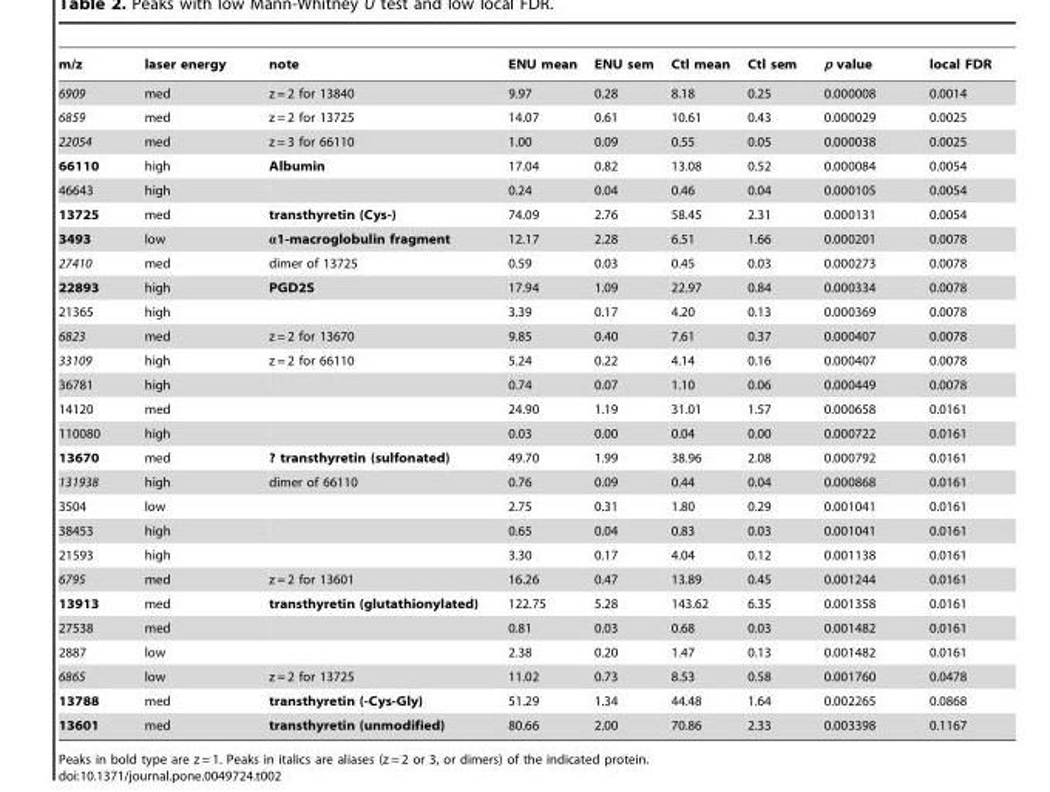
<table><thead><tr><td>m/z</td><td>laser energy</td><td>note</td><td>ENU mean</td><td>ENU sem</td><td>Ctl mean</td><td>Ctl sem</td><td>p value</td><td>local FDR</td></tr></thead><tbody><tr><td>6909</td><td>med</td><td>z = 2 for 13840</td><td>9.97</td><td>0.28</td><td>8.18</td><td>0.25</td><td>0.000008</td><td>0.0014</td></tr><tr><td>6859</td><td>med</td><td>z = 2 for 13725</td><td>14.07</td><td>0.61</td><td>10.61</td><td>0.43</td><td>0.000029</td><td>0.0025</td></tr><tr><td>22054</td><td>med</td><td>z = 3 for 66110</td><td>1.00</td><td>0.09</td><td>0.55</td><td>0.05</td><td>0.000038</td><td>0.0025</td></tr><tr><td>66110</td><td>high</td><td>Albumin</td><td>17.04</td><td>0.82</td><td>13.08</td><td>0.52</td><td>0.000084</td><td>0.0054</td></tr><tr><td>46643</td><td>high</td><td></td><td>0.24</td><td>0.04</td><td>0.46</td><td>0.04</td><td>0.000105</td><td>0.0054</td></tr><tr><td>13725</td><td>med</td><td>transthyretin (Cys-)</td><td>74.09</td><td>2.76</td><td>58.45</td><td>2.31</td><td>0.000131</td><td>0.0054</td></tr><tr><td>3493</td><td>low</td><td>α1-macroglobulin fragment</td><td>12.17</td><td>2.28</td><td>6.51</td><td>1.66</td><td>0.000201</td><td>0.0078</td></tr><tr><td>27410</td><td>med</td><td>dimer of 13725</td><td>0.59</td><td>0.03</td><td>0.45</td><td>0.03</td><td>0.000273</td><td>0.0078</td></tr><tr><td>22893</td><td>high</td><td>PGD2S</td><td>17.94</td><td>1.09</td><td>22.97</td><td>0.84</td><td>0.000334</td><td>0.0078</td></tr><tr><td>21365</td><td>high</td><td></td><td>3.39</td><td>0.17</td><td>4.20</td><td>0.13</td><td>0.000369</td><td>0.0078</td></tr><tr><td>6823</td><td>med</td><td>z = 2 for 13670</td><td>9.85</td><td>0.40</td><td>7.61</td><td>0.37</td><td>0.000407</td><td>0.0078</td></tr><tr><td>33109</td><td>high</td><td>z = 2 for 66110</td><td>5.24</td><td>0.22</td><td>4.14</td><td>0.16</td><td>0.000407</td><td>0.0078</td></tr><tr><td>36781</td><td>high</td><td></td><td>0.74</td><td>0.07</td><td>1.10</td><td>0.06</td><td>0.000449</td><td>0.0078</td></tr><tr><td>14120</td><td>med</td><td></td><td>24.90</td><td>1.19</td><td>31.01</td><td>1.57</td><td>0.000658</td><td>0.0161</td></tr><tr><td>110080</td><td>high</td><td></td><td>0.03</td><td>0.00</td><td>0.04</td><td>0.00</td><td>0.000722</td><td>0.0161</td></tr><tr><td>13670</td><td>med</td><td>? transthyretin (sulfonated)</td><td>49.70</td><td>1.99</td><td>38.96</td><td>2.08</td><td>0.000792</td><td>0.0161</td></tr><tr><td>131938</td><td>high</td><td>dimer of 66110</td><td>0.76</td><td>0.09</td><td>0.44</td><td>0.04</td><td>0.000868</td><td>0.0161</td></tr><tr><td>3504</td><td>low</td><td></td><td>2.75</td><td>0.31</td><td>1.80</td><td>0.29</td><td>0.001041</td><td>0.0161</td></tr><tr><td>38453</td><td>high</td><td></td><td>0.65</td><td>0.04</td><td>0.83</td><td>0.03</td><td>0.001041</td><td>0.0161</td></tr><tr><td>21593</td><td>high</td><td></td><td>3.30</td><td>0.17</td><td>4.04</td><td>0.12</td><td>0.001138</td><td>0.0161</td></tr><tr><td>6795</td><td>med</td><td>z = 2 for 13601</td><td>16.26</td><td>0.47</td><td>13.89</td><td>0.45</td><td>0.001244</td><td>0.0161</td></tr><tr><td>13913</td><td>med</td><td>transthyretin (glutathionylated)</td><td>122.75</td><td>5.28</td><td>143.62</td><td>6.35</td><td>0.001358</td><td>0.0161</td></tr><tr><td>27538</td><td>med</td><td></td><td>0.81</td><td>0.03</td><td>0.68</td><td>0.03</td><td>0.001482</td><td>0.0161</td></tr><tr><td>2887</td><td>low</td><td></td><td>2.38</td><td>0.20</td><td>1.47</td><td>0.13</td><td>0.001482</td><td>0.0161</td></tr><tr><td>6865</td><td>low</td><td>z = 2 for 13725</td><td>11.02</td><td>0.73</td><td>8.53</td><td>0.58</td><td>0.001760</td><td>0.0478</td></tr><tr><td>13788</td><td>med</td><td>transthyretin (-Cys-Gly)</td><td>51.29</td><td>1.34</td><td>44.48</td><td>1.64</td><td>0.002265</td><td>0.0868</td></tr><tr><td>13601</td><td>med</td><td>transthyretin (unmodified)</td><td>80.66</td><td>2.00</td><td>70.86</td><td>2.33</td><td>0.003398</td><td>0.1167</td></tr></tbody></table>